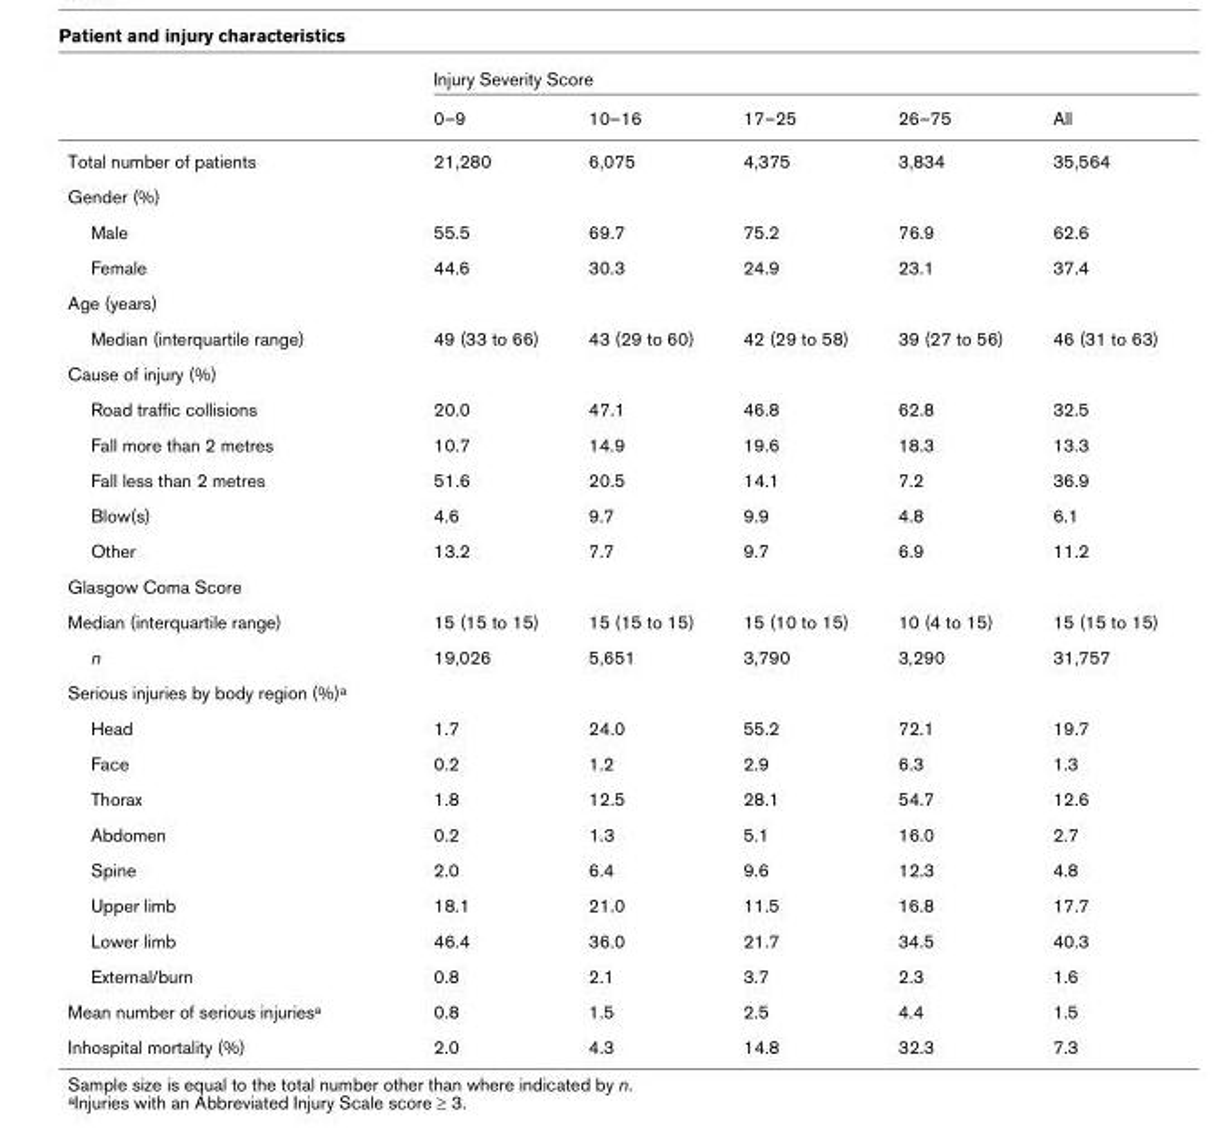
<table><thead><tr><td rowspan="2"></td><td colspan="5">Injury Severity Score</td></tr><tr><td>0–9</td><td>10–16</td><td>17–25</td><td>26–75</td><td>All</td></tr></thead><tbody><tr><td>Total number of patients</td><td>21,280</td><td>6,075</td><td>4,375</td><td>3,834</td><td>35,564</td></tr><tr><td colspan="6">Gender (%)</td></tr><tr><td>Male</td><td>55.5</td><td>69.7</td><td>75.2</td><td>76.9</td><td>62.6</td></tr><tr><td>Female</td><td>44.6</td><td>30.3</td><td>24.9</td><td>23.1</td><td>37.4</td></tr><tr><td colspan="6">Age (years)</td></tr><tr><td>Median (interquartile range)</td><td>49 (33 to 66)</td><td>43 (29 to 60)</td><td>42 (29 to 58)</td><td>39 (27 to 56)</td><td>46 (31 to 63)</td></tr><tr><td colspan="6">Cause of injury (%)</td></tr><tr><td>Road traffic collisions</td><td>20.0</td><td>47.1</td><td>46.8</td><td>62.8</td><td>32.5</td></tr><tr><td>Fall more than 2 metres</td><td>10.7</td><td>14.9</td><td>19.6</td><td>18.3</td><td>13.3</td></tr><tr><td>Fall less than 2 metres</td><td>51.6</td><td>20.5</td><td>14.1</td><td>7.2</td><td>36.9</td></tr><tr><td>Blow(s)</td><td>4.6</td><td>9.7</td><td>9.9</td><td>4.8</td><td>6.1</td></tr><tr><td>Other</td><td>13.2</td><td>7.7</td><td>9.7</td><td>6.9</td><td>11.2</td></tr><tr><td colspan="6">Glasgow Coma Score</td></tr><tr><td>Median (interquartile range)</td><td>15 (15 to 15)</td><td>15 (15 to 15)</td><td>15 (10 to 15)</td><td>10 (4 to 15)</td><td>15 (15 to 15)</td></tr><tr><td>n</td><td>19,026</td><td>5,651</td><td>3,790</td><td>3,290</td><td>31,757</td></tr><tr><td colspan="6">Serious injuries by body region (%)<sup>a</sup></td></tr><tr><td>Head</td><td>1.7</td><td>24.0</td><td>55.2</td><td>72.1</td><td>19.7</td></tr><tr><td>Face</td><td>0.2</td><td>1.2</td><td>2.9</td><td>6.3</td><td>1.3</td></tr><tr><td>Thorax</td><td>1.8</td><td>12.5</td><td>28.1</td><td>54.7</td><td>12.6</td></tr><tr><td>Abdomen</td><td>0.2</td><td>1.3</td><td>5.1</td><td>16.0</td><td>2.7</td></tr><tr><td>Spine</td><td>2.0</td><td>6.4</td><td>9.6</td><td>12.3</td><td>4.8</td></tr><tr><td>Upper limb</td><td>18.1</td><td>21.0</td><td>11.5</td><td>16.8</td><td>17.7</td></tr><tr><td>Lower limb</td><td>46.4</td><td>36.0</td><td>21.7</td><td>34.5</td><td>40.3</td></tr><tr><td>External/burn</td><td>0.8</td><td>2.1</td><td>3.7</td><td>2.3</td><td>1.6</td></tr><tr><td>Mean number of serious injuries<sup>a</sup></td><td>0.8</td><td>1.5</td><td>2.5</td><td>4.4</td><td>1.5</td></tr><tr><td>Inhospital mortality (%)</td><td>2.0</td><td>4.3</td><td>14.8</td><td>32.3</td><td>7.3</td></tr></tbody></table>